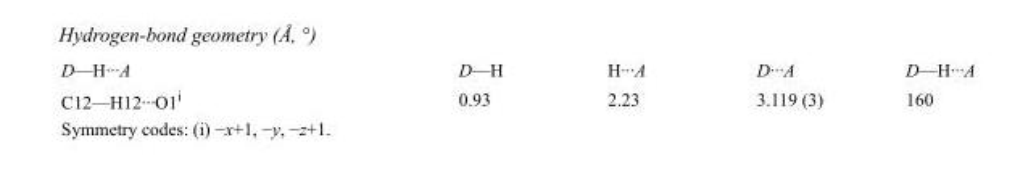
<table><tbody><tr><td>D—H···A</td><td>D—H</td><td>H···A</td><td>D···A</td><td>D—H···A</td></tr><tr><td>C12—H12···O1<sup>i</sup></td><td>0.93</td><td>2.23</td><td>3.119 (3)</td><td>160</td></tr></tbody></table>